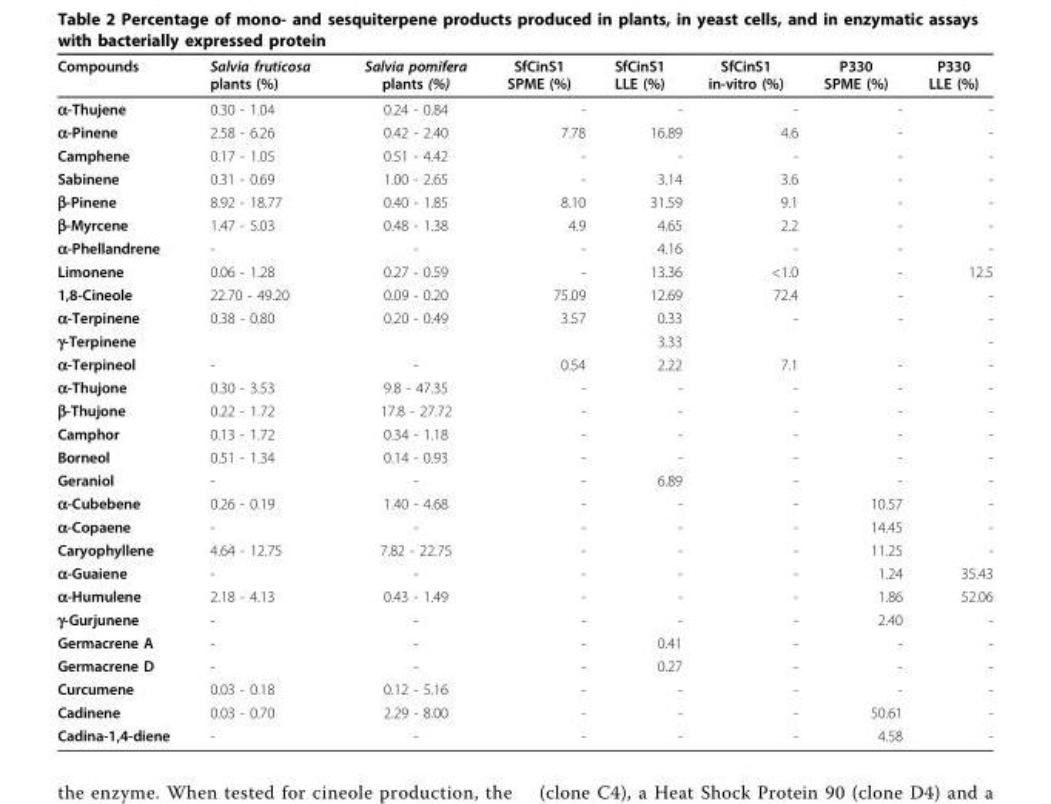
<table><thead><tr><td>Compounds</td><td>Salvia fruticosa plants (%)</td><td>Salvia pomifera plants (%)</td><td>SfCinS1 SPME (%)</td><td>SfCinS1 LLE (%)</td><td>SfCinS1 in-vitro (%)</td><td>P330 SPME (%)</td><td>P330 LLE (%)</td></tr></thead><tbody><tr><td>α-Thujene</td><td>0.30 - 1.04</td><td>0.24 - 0.84</td><td>-</td><td>-</td><td>-</td><td>-</td><td>-</td></tr><tr><td>α-Pinene</td><td>2.58 - 6.26</td><td>0.42 - 2.40</td><td>7.78</td><td>16.89</td><td>4.6</td><td>-</td><td>-</td></tr><tr><td>Camphene</td><td>0.17 - 1.05</td><td>0.51 - 4.42</td><td>-</td><td>-</td><td>-</td><td>-</td><td>-</td></tr><tr><td>Sabinene</td><td>0.31 - 0.69</td><td>1.00 - 2.65</td><td>-</td><td>3.14</td><td>3.6</td><td>-</td><td>-</td></tr><tr><td>β-Pinene</td><td>8.92 - 18.77</td><td>0.40 - 1.85</td><td>8.10</td><td>31.59</td><td>9.1</td><td>-</td><td>-</td></tr><tr><td>β-Myrcene</td><td>1.47 - 5.03</td><td>0.48 - 1.38</td><td>4.9</td><td>4.65</td><td>2.2</td><td>-</td><td>-</td></tr><tr><td>α-Phellandrene</td><td>-</td><td>-</td><td>-</td><td>4.16</td><td>-</td><td>-</td><td>-</td></tr><tr><td>Limonene</td><td>0.06 - 1.28</td><td>0.27 - 0.59</td><td>-</td><td>13.36</td><td>&lt;1.0</td><td>-</td><td>12.5</td></tr><tr><td>1,8-Cineole</td><td>22.70 - 49.20</td><td>0.09 - 0.20</td><td>75.09</td><td>12.69</td><td>72.4</td><td>-</td><td>-</td></tr><tr><td>α-Terpinene</td><td>0.38 - 0.80</td><td>0.20 - 0.49</td><td>3.57</td><td>0.33</td><td>-</td><td>-</td><td>-</td></tr><tr><td>γ-Terpinene</td><td></td><td></td><td></td><td>3.33</td><td></td><td></td><td>-</td></tr><tr><td>α-Terpineol</td><td>-</td><td>-</td><td>0.54</td><td>2.22</td><td>7.1</td><td>-</td><td>-</td></tr><tr><td>α-Thujone</td><td>0.30 - 3.53</td><td>9.8 - 47.35</td><td>-</td><td>-</td><td>-</td><td>-</td><td>-</td></tr><tr><td>β-Thujone</td><td>0.22 - 1.72</td><td>17.8 - 27.72</td><td>-</td><td>-</td><td>-</td><td>-</td><td>-</td></tr><tr><td>Camphor</td><td>0.13 - 1.72</td><td>0.34 - 1.18</td><td>-</td><td>-</td><td>-</td><td>-</td><td>-</td></tr><tr><td>Borneol</td><td>0.51 - 1.34</td><td>0.14 - 0.93</td><td>-</td><td>-</td><td>-</td><td>-</td><td>-</td></tr><tr><td>Geraniol</td><td>-</td><td>-</td><td>-</td><td>6.89</td><td>-</td><td>-</td><td>-</td></tr><tr><td>α-Cubebene</td><td>0.26 - 0.19</td><td>1.40 - 4.68</td><td>-</td><td>-</td><td>-</td><td>10.57</td><td>-</td></tr><tr><td>α-Copaene</td><td>-</td><td>-</td><td>-</td><td>-</td><td>-</td><td>14.45</td><td>-</td></tr><tr><td>Caryophyllene</td><td>4.64 - 12.75</td><td>7.82 - 22.75</td><td>-</td><td>-</td><td>-</td><td>11.25</td><td>-</td></tr><tr><td>α-Guaiene</td><td>-</td><td>-</td><td>-</td><td>-</td><td>-</td><td>1.24</td><td>35.43</td></tr><tr><td>α-Humulene</td><td>2.18 - 4.13</td><td>0.43 - 1.49</td><td>-</td><td>-</td><td>-</td><td>1.86</td><td>52.06</td></tr><tr><td>γ-Gurjunene</td><td>-</td><td>-</td><td>-</td><td>-</td><td>-</td><td>2.40</td><td>-</td></tr><tr><td>Germacrene A</td><td>-</td><td>-</td><td>-</td><td>0.41</td><td>-</td><td>-</td><td>-</td></tr><tr><td>Germacrene D</td><td>-</td><td>-</td><td>-</td><td>0.27</td><td>-</td><td>-</td><td>-</td></tr><tr><td>Curcumene</td><td>0.03 - 0.18</td><td>0.12 - 5.16</td><td>-</td><td>-</td><td>-</td><td>-</td><td>-</td></tr><tr><td>Cadinene</td><td>0.03 - 0.70</td><td>2.29 - 8.00</td><td>-</td><td>-</td><td>-</td><td>50.61</td><td>-</td></tr><tr><td>Cadina-1,4-diene</td><td>-</td><td>-</td><td>-</td><td>-</td><td>-</td><td>4.58</td><td>-</td></tr></tbody></table>